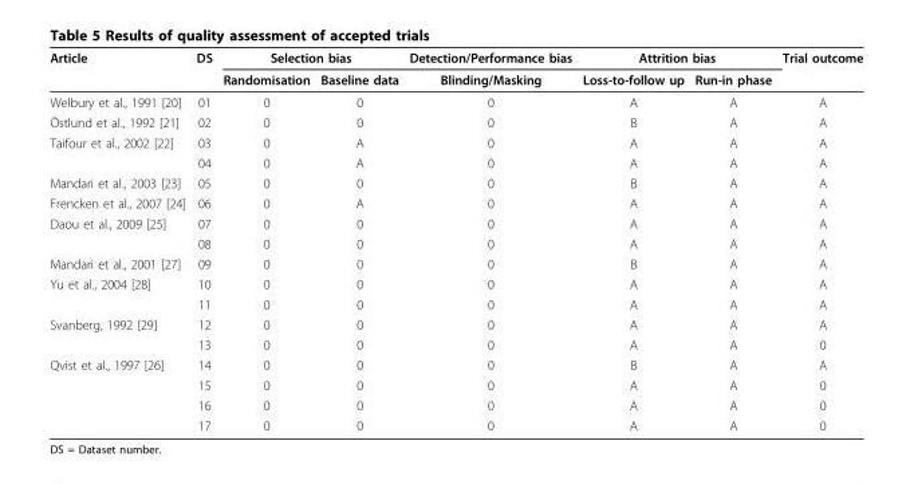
<table><thead><tr><td rowspan="2">Article</td><td rowspan="2">DS</td><td colspan="2">Selection bias</td><td rowspan="2">Detection/Performance bias Blinding/Masking</td><td colspan="2">Attrition bias</td><td rowspan="2">Trial outcome</td></tr><tr><td>Randomisation</td><td>Baseline data</td><td>Loss-to-follow up</td><td>Run-in phase</td></tr></thead><tbody><tr><td>Welbury et al., 1991 [20]</td><td>01</td><td>0</td><td>0</td><td>0</td><td>A</td><td>A</td><td>A</td></tr><tr><td>Östlund et al., 1992 [21]</td><td>02</td><td>0</td><td>0</td><td>0</td><td>B</td><td>A</td><td>A</td></tr><tr><td rowspan="2">Taifour et al., 2002 [22]</td><td>03</td><td>0</td><td>A</td><td>0</td><td>A</td><td>A</td><td>A</td></tr><tr><td>04</td><td>0</td><td>A</td><td>0</td><td>A</td><td>A</td><td>A</td></tr><tr><td>Mandari et al., 2003 [23]</td><td>05</td><td>0</td><td>0</td><td>0</td><td>B</td><td>A</td><td>A</td></tr><tr><td>Frencken et al., 2007 [24]</td><td>06</td><td>0</td><td>A</td><td>0</td><td>A</td><td>A</td><td>A</td></tr><tr><td rowspan="2">Daou et al., 2009 [25]</td><td>07</td><td>0</td><td>0</td><td>0</td><td>A</td><td>A</td><td>A</td></tr><tr><td>08</td><td>0</td><td>0</td><td>0</td><td>A</td><td>A</td><td>A</td></tr><tr><td>Mandari et al., 2001 [27]</td><td>09</td><td>0</td><td>0</td><td>0</td><td>B</td><td>A</td><td>A</td></tr><tr><td rowspan="2">Yu et al., 2004 [28]</td><td>10</td><td>0</td><td>0</td><td>0</td><td>A</td><td>A</td><td>A</td></tr><tr><td>11</td><td>0</td><td>0</td><td>0</td><td>A</td><td>A</td><td>A</td></tr><tr><td rowspan="2">Svanberg, 1992 [29]</td><td>12</td><td>0</td><td>0</td><td>0</td><td>A</td><td>A</td><td>A</td></tr><tr><td>13</td><td>0</td><td>0</td><td>0</td><td>A</td><td>A</td><td>0</td></tr><tr><td rowspan="4">Qvist et al., 1997 [26]</td><td>14</td><td>0</td><td>0</td><td>0</td><td>B</td><td>A</td><td>A</td></tr><tr><td>15</td><td>0</td><td>0</td><td>0</td><td>A</td><td>A</td><td>0</td></tr><tr><td>16</td><td>0</td><td>0</td><td>0</td><td>A</td><td>A</td><td>0</td></tr><tr><td>17</td><td>0</td><td>0</td><td>0</td><td>A</td><td>A</td><td>0</td></tr></tbody></table>